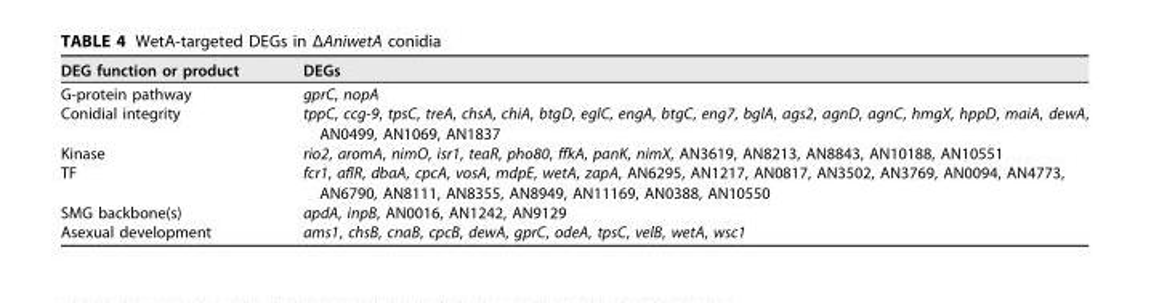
<table><thead><tr><td>DEG function or product</td><td>DEGs</td></tr></thead><tbody><tr><td>G-protein pathway</td><td>gprC, nopA</td></tr><tr><td>Conidial integrity</td><td>tppC, ccg-9, tpsC, treA, chsA, chiA, btgD, eglC, engA, btgC, eng7, bglA, ags2, agnD, agnC, hmgX, hppD, maiA, dewA, AN0499, AN1069, AN1837</td></tr><tr><td>Kinase</td><td>rio2, aromA, nimO, isr1, teaR, pho80, ffkA, panK, nimX, AN3619, AN8213, AN8843, AN10188, AN10551</td></tr><tr><td>TF</td><td>fcr1, aflR, dbaA, cpcA, vosA, mdpE, wetA, zapA, AN6295, AN1217, AN0817, AN3502, AN3769, AN0094, AN4773, AN6790, AN8111, AN8355, AN8949, AN11169, AN0388, AN10550</td></tr><tr><td>SMG backbone(s)</td><td>apdA, inpB, AN0016, AN1242, AN9129</td></tr><tr><td>Asexual development</td><td>ams1, chsB, cnaB, cpcB, dewA, gprC, odeA, tpsC, velB, wetA, wsc1</td></tr></tbody></table>